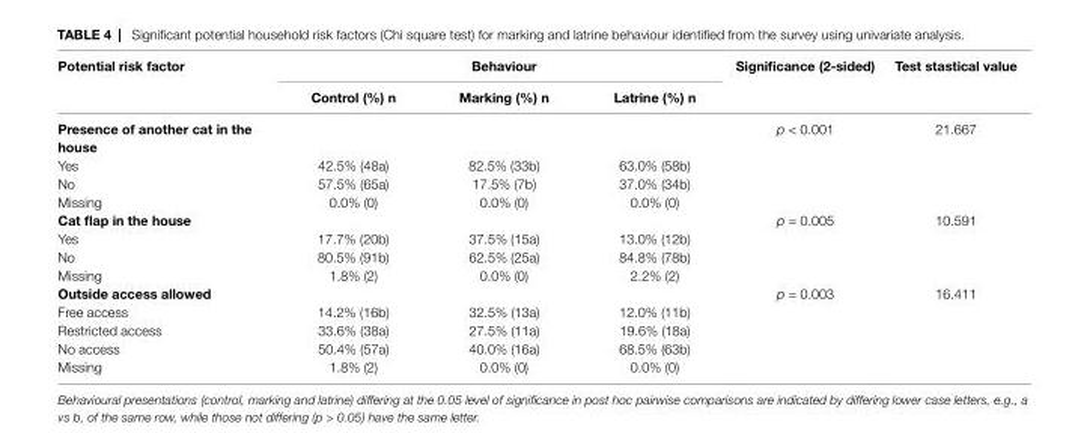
<table><thead><tr><td rowspan="2">Potential risk factor</td><td colspan="3">Behaviour</td><td rowspan="2">significance (2-sided)</td><td rowspan="2">Test stastical value</td></tr><tr><td>control (%) n</td><td>Marking (%) n</td><td>latrine (%) n</td></tr></thead><tbody><tr><td>Presence of another cat in the house</td><td></td><td></td><td></td><td>p &lt; 0.001</td><td>21.667</td></tr><tr><td>Yes</td><td>42.5% (48a)</td><td>82.5% (33b)</td><td>63.0% (58b)</td><td></td><td></td></tr><tr><td>No</td><td>57.5% (65a)</td><td>17.5% (7b)</td><td>37.0% (34b)</td><td></td><td></td></tr><tr><td>Missing</td><td>0.0% (0)</td><td>0.0% (0)</td><td>0.0% (0)</td><td></td><td></td></tr><tr><td>cat flap in the house</td><td></td><td></td><td></td><td>p = 0.005</td><td>10.591</td></tr><tr><td>Yes</td><td>17.7% (20b)</td><td>37.5% (15a)</td><td>13.0% (12b)</td><td></td><td></td></tr><tr><td>No</td><td>80.5% (91b)</td><td>62.5% (25a)</td><td>84.8% (78b)</td><td></td><td></td></tr><tr><td>Missing</td><td>1.8% (2)</td><td>0.0% (0)</td><td>2.2% (2)</td><td></td><td></td></tr><tr><td>Outside access allowed</td><td></td><td></td><td></td><td>p = 0.003</td><td>16.411</td></tr><tr><td>Free access</td><td>14.2% (16b)</td><td>32.5% (13a)</td><td>12.0% (11b)</td><td></td><td></td></tr><tr><td>Restricted access</td><td>33.6% (38a)</td><td>27.5% (11a)</td><td>19.6% (18a)</td><td></td><td></td></tr><tr><td>No access</td><td>50.4% (57a)</td><td>40.0% (16a)</td><td>68.5% (63b)</td><td></td><td></td></tr><tr><td>Missing</td><td>1.8% (2)</td><td>0.0% (0)</td><td>0.0% (0)</td><td></td><td></td></tr></tbody></table>